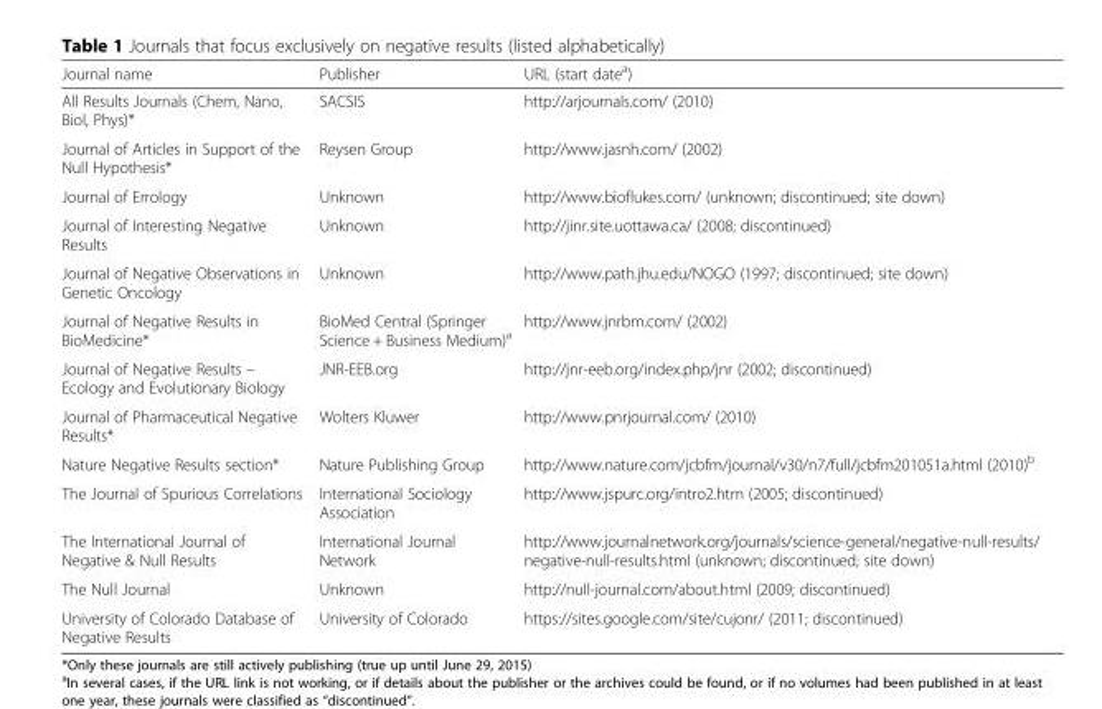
<table><thead><tr><td>Journal name</td><td>Publisher</td><td>URL (start date<sup>a</sup>)</td></tr></thead><tbody><tr><td>All Results Journals (Chem, Nano, Biol, Phys)*</td><td>SACSIS</td><td>http://arjournals.com/ (2010)</td></tr><tr><td>Journal of Articles in Support of the Null Hypothesis*</td><td>Reysen Group</td><td>http://www.jasnh.com/ (2002)</td></tr><tr><td>Journal of Errology</td><td>Unknown</td><td>http://www.bioflukes.com/ (unknown; discontinued; site down)</td></tr><tr><td>Journal of Interesting Negative Results</td><td>Unknown</td><td>http://jinr.site.uottawa.ca/ (2008; discontinued)</td></tr><tr><td>Journal of Negative Observations in Genetic Oncology</td><td>Unknown</td><td>http://www.path.jhu.edu/NOGO (1997; discontinued; site down)</td></tr><tr><td>Journal of Negative Results in BioMedicine*</td><td>BioMed Central (Springer Science + Business Medium)<sup>a</sup></td><td>http://www.jnrbm.com/ (2002)</td></tr><tr><td>Journal of Negative Results – Ecology and Evolutionary Biology</td><td>JNR-EEB.org</td><td>http://jnr-eeb.org/index.php/jnr (2002; discontinued)</td></tr><tr><td>Journal of Pharmaceutical Negative Results*</td><td>Wolters Kluwer</td><td>http://www.pnrjournal.com/ (2010)</td></tr><tr><td>Nature Negative Results section*</td><td>Nature Publishing Group</td><td>http://www.nature.com/jcbfm/journal/v30/n7/full/jcbfm201051a.html (2010)<sup>b</sup></td></tr><tr><td>The Journal of Spurious Correlations</td><td>International Sociology Association</td><td>http://www.jspurc.org/intro2.htm (2005; discontinued)</td></tr><tr><td>The International Journal of Negative &amp; Null Results</td><td>International Journal Network</td><td>http://www.journalnetwork.org/journals/science-general/negative-null-results/ negative-null-results.html (unknown; discontinued; site down)</td></tr><tr><td>The Null Journal</td><td>Unknown</td><td>http://null-journal.com/about.html (2009; discontinued)</td></tr><tr><td>University of Colorado Database of Negative Results</td><td>University of Colorado</td><td>https://sites.google.com/site/cujonr/ (2011; discontinued)</td></tr></tbody></table>